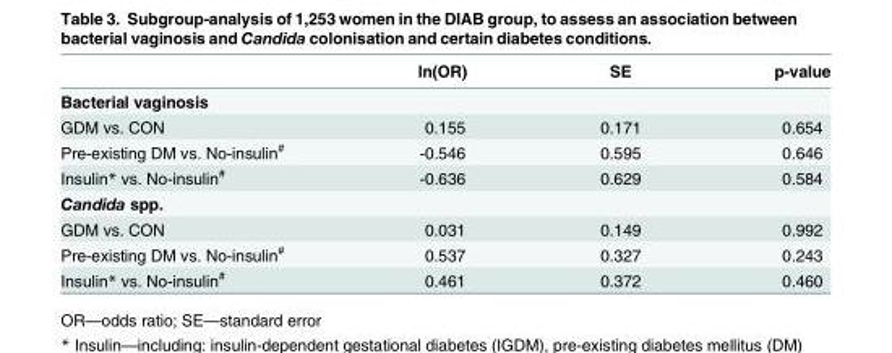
<table><thead><tr><td></td><td>ln(OR)</td><td>SE</td><td>p-value</td></tr></thead><tbody><tr><td colspan="4">Bacterial vaginosis</td></tr><tr><td>GDM vs. CON</td><td>0.155</td><td>0.171</td><td>0.654</td></tr><tr><td>Pre-existing DM vs. No-insulin<sup>#</sup></td><td>-0.546</td><td>0.595</td><td>0.646</td></tr><tr><td>Insulin* vs. No-insulin<sup>#</sup></td><td>-0.636</td><td>0.629</td><td>0.584</td></tr><tr><td colspan="4">Candida spp.</td></tr><tr><td>GDM vs. CON</td><td>0.031</td><td>0.149</td><td>0.992</td></tr><tr><td>Pre-existing DM vs. No-insulin<sup>#</sup></td><td>0.537</td><td>0.327</td><td>0.243</td></tr><tr><td>Insulin* vs. No-insulin<sup>#</sup></td><td>0.461</td><td>0.372</td><td>0.460</td></tr></tbody></table>